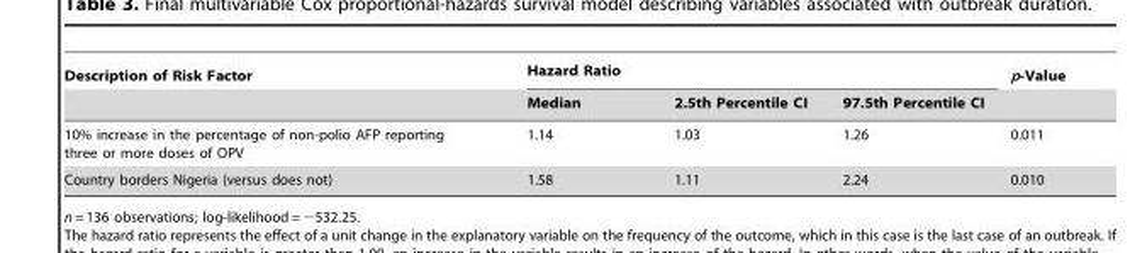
<table><thead><tr><td rowspan="2">Description of Risk Factor</td><td colspan="3">Hazard Ratio</td><td rowspan="2">p-Value</td></tr><tr><td>Median</td><td>2.5th Percentile CI</td><td>97.5th Percentile CI</td></tr></thead><tbody><tr><td>10% increase in the percentage of non-polio AFP reporting three or more doses of OPV</td><td>1.14</td><td>1.03</td><td>1.26</td><td>0.011</td></tr><tr><td>Country borders Nigeria (versus does not)</td><td>1.58</td><td>1.11</td><td>2.24</td><td>0.010</td></tr></tbody></table>